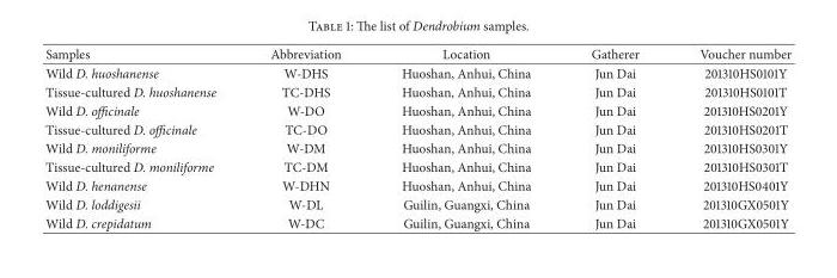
<table><thead><tr><td>Samples</td><td>Abbreviation</td><td>Location</td><td>Gatherer</td><td>Voucher number</td></tr></thead><tbody><tr><td>Wild D. huoshanense</td><td>W-DHS</td><td>Huoshan, Anhui, China</td><td>Jun Dai</td><td>201310HS0101Y</td></tr><tr><td>Tissue-cultured D. huoshanense</td><td>TC-DHS</td><td>Huoshan, Anhui, China</td><td>Jun Dai</td><td>201310HS0101T</td></tr><tr><td>Wild D. officinale</td><td>W-DO</td><td>Huoshan, Anhui, China</td><td>Jun Dai</td><td>201310HS0201Y</td></tr><tr><td>Tissue-cultured D. officinale</td><td>TC-DO</td><td>Huoshan, Anhui, China</td><td>Jun Dai</td><td>201310HS0201T</td></tr><tr><td>Wild D. moniliforme</td><td>W-DM</td><td>Huoshan, Anhui, China</td><td>Jun Dai</td><td>201310HS0301Y</td></tr><tr><td>Tissue-cultured D. moniliforme</td><td>TC-DM</td><td>Huoshan, Anhui, China</td><td>Jun Dai</td><td>201310HS0301T</td></tr><tr><td>Wild D. henanense</td><td>W-DHN</td><td>Huoshan, Anhui, China</td><td>Jun Dai</td><td>201310HS0401Y</td></tr><tr><td>Wild D. loddigesii</td><td>W-DL</td><td>Guilin, Guangxi, China</td><td>Jun Dai</td><td>201310GX0501Y</td></tr><tr><td>Wild D. crepidatum</td><td>W-DC</td><td>Guilin, Guangxi, China</td><td>Jun Dai</td><td>201310GX0501Y</td></tr></tbody></table>